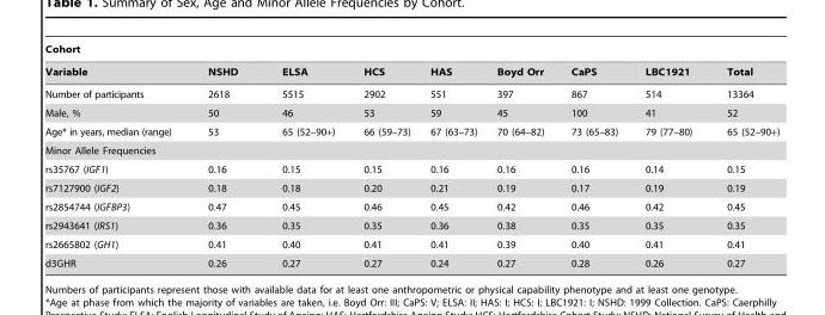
<table><thead><tr><td colspan="9">Cohort</td></tr><tr><td>Variable</td><td>NSHD</td><td>ELSA</td><td>HCS</td><td>HAS</td><td>Boyd Orr</td><td>CaPS</td><td>LBC1921</td><td>Total</td></tr></thead><tbody><tr><td>Number of participants</td><td>2618</td><td>5515</td><td>2902</td><td>551</td><td>397</td><td>867</td><td>514</td><td>13364</td></tr><tr><td>Male, %</td><td>50</td><td>46</td><td>53</td><td>59</td><td>45</td><td>100</td><td>41</td><td>52</td></tr><tr><td>Age* in years, median (range)</td><td>53</td><td>65 (52–90+)</td><td>66 (59–73)</td><td>67 (63–73)</td><td>70 (64–82)</td><td>73 (65–83)</td><td>79 (77–80)</td><td>65 (52–90+)</td></tr><tr><td colspan="9">Minor Allele Frequencies</td></tr><tr><td>rs35767 (IGF1)</td><td>0.16</td><td>0.15</td><td>0.15</td><td>0.16</td><td>0.16</td><td>0.16</td><td>0.14</td><td>0.15</td></tr><tr><td>rs7127900 (IGF2)</td><td>0.18</td><td>0.18</td><td>0.20</td><td>0.21</td><td>0.19</td><td>0.17</td><td>0.19</td><td>0.19</td></tr><tr><td>rs2854744 (IGFBP3)</td><td>0.47</td><td>0.45</td><td>0.46</td><td>0.45</td><td>0.42</td><td>0.46</td><td>0.42</td><td>0.45</td></tr><tr><td>rs2943641 (IRS1)</td><td>0.36</td><td>0.35</td><td>0.35</td><td>0.36</td><td>0.38</td><td>0.35</td><td>0.35</td><td>0.35</td></tr><tr><td>rs2665802 (GH1)</td><td>0.41</td><td>0.40</td><td>0.41</td><td>0.41</td><td>0.39</td><td>0.40</td><td>0.41</td><td>0.41</td></tr><tr><td>d3GHR</td><td>0.26</td><td>0.27</td><td>0.27</td><td>0.24</td><td>0.27</td><td>0.28</td><td>0.26</td><td>0.27</td></tr></tbody></table>